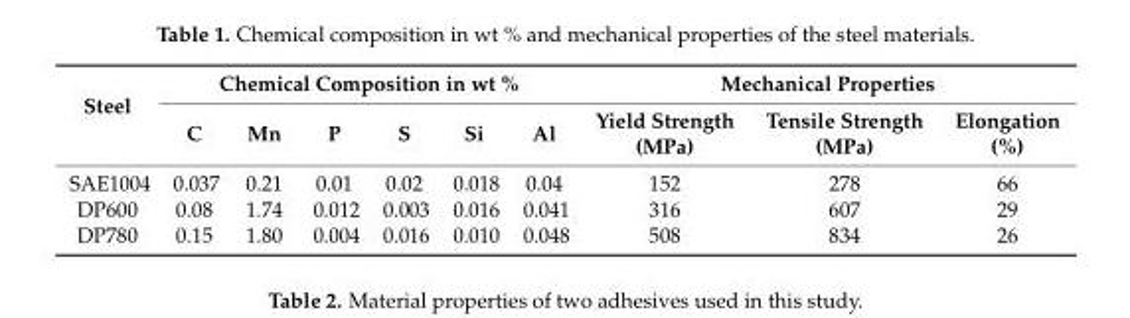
<table><thead><tr><td rowspan="2">Steel</td><td colspan="6">Chemical Composition in wt %</td><td colspan="3">Mechanical Properties</td></tr><tr><td>C</td><td>Mn</td><td>P</td><td>S</td><td>Si</td><td>Al</td><td>Yield Strength (MPa)</td><td>Tensile Strength (MPa)</td><td>Elongation (%)</td></tr></thead><tbody><tr><td>SAE1004</td><td>0.037</td><td>0.21</td><td>0.01</td><td>0.02</td><td>0.018</td><td>0.04</td><td>152</td><td>278</td><td>66</td></tr><tr><td>DP600</td><td>0.08</td><td>1.74</td><td>0.012</td><td>0.003</td><td>0.016</td><td>0.041</td><td>316</td><td>607</td><td>29</td></tr><tr><td>DP780</td><td>0.15</td><td>1.80</td><td>0.004</td><td>0.016</td><td>0.010</td><td>0.048</td><td>508</td><td>834</td><td>26</td></tr></tbody></table>